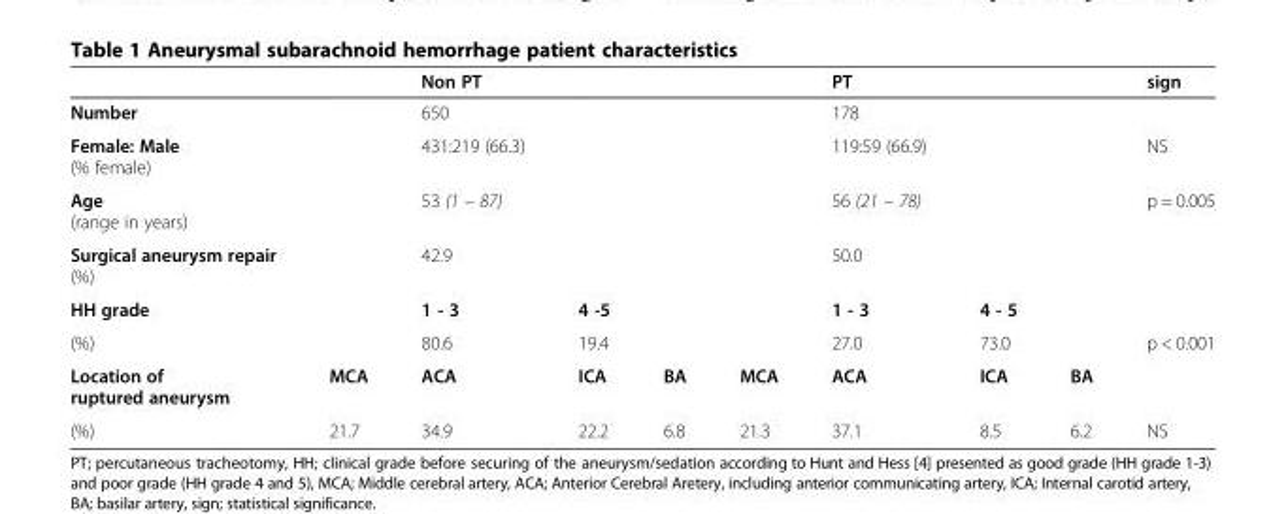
<table><thead><tr><td></td><td></td><td>Non PT</td><td></td><td></td><td></td><td>PT</td><td></td><td></td><td>sign</td></tr></thead><tbody><tr><td>Number</td><td></td><td>650</td><td></td><td></td><td></td><td>178</td><td></td><td></td><td></td></tr><tr><td>Female: Male (% female)</td><td></td><td>431:219 (66.3)</td><td></td><td></td><td></td><td>119:59 (66.9)</td><td></td><td></td><td>NS</td></tr><tr><td>Age (range in years)</td><td></td><td>53 (1 – 87)</td><td></td><td></td><td></td><td>56 (21 – 78)</td><td></td><td></td><td>p = 0.005</td></tr><tr><td>Surgical aneurysm repair (%)</td><td></td><td>42.9</td><td></td><td></td><td></td><td>50.0</td><td></td><td></td><td></td></tr><tr><td>HH grade</td><td></td><td>1 - 3</td><td>4 -5</td><td></td><td></td><td>1 - 3</td><td>4 - 5</td><td></td><td></td></tr><tr><td>(%)</td><td></td><td>80.6</td><td>19.4</td><td></td><td></td><td>27.0</td><td>73.0</td><td></td><td>p &lt; 0.001</td></tr><tr><td>Location of ruptured aneurysm</td><td>MCA</td><td>ACA</td><td>ICA</td><td>BA</td><td>MCA</td><td>ACA</td><td>ICA</td><td>BA</td><td></td></tr><tr><td>(%)</td><td>21.7</td><td>34.9</td><td>22.2</td><td>6.8</td><td>21.3</td><td>37.1</td><td>8.5</td><td>6.2</td><td>NS</td></tr></tbody></table>